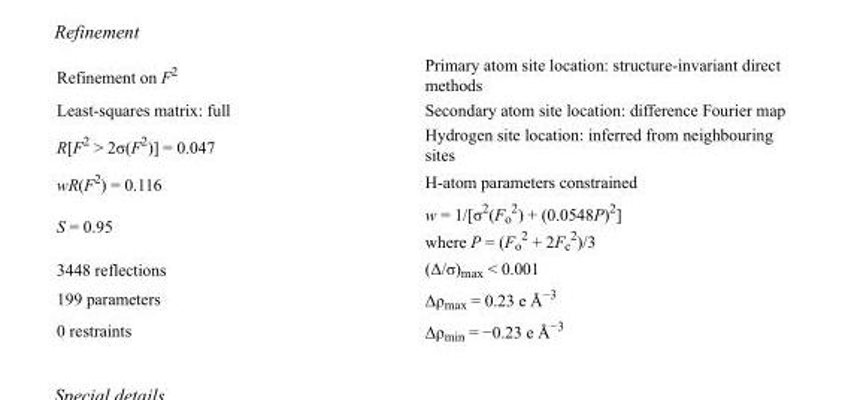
<table><tbody><tr><td>Refinement on F<sup>2</sup></td><td>Primary atom site location: structure-invariant direct methods</td></tr><tr><td>Least-squares matrix: full</td><td>Secondary atom site location: difference Fourier map</td></tr><tr><td>R[F<sup>2</sup> &gt; 2σ(F<sup>2</sup>)] = 0.047</td><td>Hydrogen site location: inferred from neighbouring sites</td></tr><tr><td>wR(F<sup>2</sup>) = 0.116</td><td>H-atom parameters constrained</td></tr><tr><td>S = 0.95</td><td>w = 1/[σ<sup>2</sup>(F<sub>o</sub> <sup>2</sup>) + (0.0548P)<sup>2</sup>] where P = (F<sub>o</sub> <sup>2</sup> + 2F<sub>c</sub> <sup>2</sup>)/3</td></tr><tr><td>3448 reflections</td><td>(Δ/σ)<sub>max</sub> &lt; 0.001</td></tr><tr><td>199 parameters</td><td>Δρ<sub>max</sub> = 0.23 e Å<sup>−3</sup></td></tr><tr><td>0 restraints</td><td>Δρ<sub>min</sub> = −0.23 e Å<sup>−3</sup></td></tr></tbody></table>